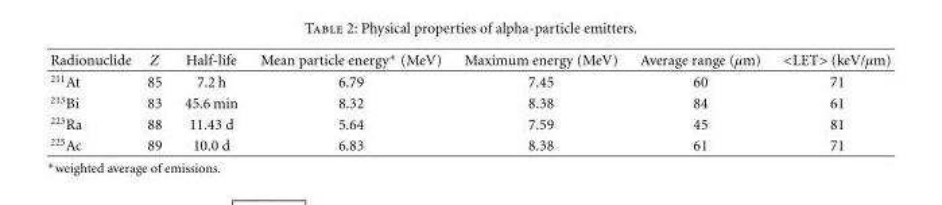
<table><thead><tr><td>Radionuclide</td><td>Z</td><td>Half-life</td><td>Mean particle energy∗ (MeV)</td><td>Maximum energy (MeV)</td><td>Average range (μm)</td><td>&lt;LET&gt; (keV/μm)</td></tr></thead><tbody><tr><td><sup>211</sup>At</td><td>85</td><td>7.2 h</td><td>6.79</td><td>7.45</td><td>60</td><td>71</td></tr><tr><td><sup>213</sup>Bi</td><td>83</td><td>45.6 min</td><td>8.32</td><td>8.38</td><td>84</td><td>61</td></tr><tr><td><sup>223</sup>Ra</td><td>88</td><td>11.43 d</td><td>5.64</td><td>7.59</td><td>45</td><td>81</td></tr><tr><td><sup>225</sup>Ac</td><td>89</td><td>10.0 d</td><td>6.83</td><td>8.38</td><td>61</td><td>71</td></tr></tbody></table>